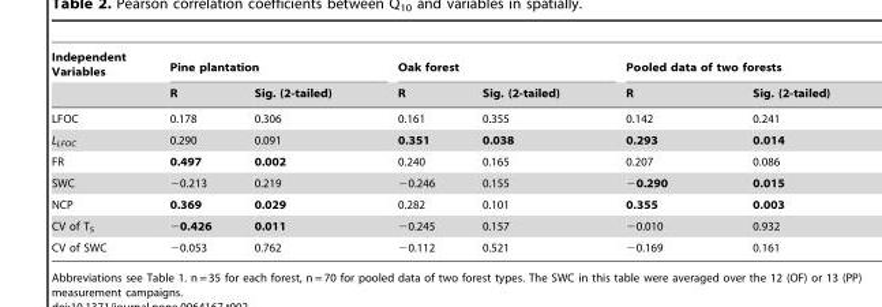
<table><thead><tr><td rowspan="2">Independent Variables</td><td colspan="2">Pine plantation</td><td colspan="2">Oak forest</td><td colspan="2">Pooled data of two forests</td></tr><tr><td>R</td><td>Sig. (2-tailed)</td><td>R</td><td>Sig. (2-tailed)</td><td>R</td><td>Sig. (2-tailed)</td></tr></thead><tbody><tr><td>LFOC</td><td>0.178</td><td>0.306</td><td>0.161</td><td>0.355</td><td>0.142</td><td>0.241</td></tr><tr><td>L<sub>LFOC</sub></td><td>0.290</td><td>0.091</td><td>0.351</td><td>0.038</td><td>0.293</td><td>0.014</td></tr><tr><td>FR</td><td>0.497</td><td>0.002</td><td>0.240</td><td>0.165</td><td>0.207</td><td>0.086</td></tr><tr><td>SWC</td><td>−0.213</td><td>0.219</td><td>−0.246</td><td>0.155</td><td>−0.290</td><td>0.015</td></tr><tr><td>NCP</td><td>0.369</td><td>0.029</td><td>0.282</td><td>0.101</td><td>0.355</td><td>0.003</td></tr><tr><td>CV of T<sub>5</sub></td><td>−0.426</td><td>0.011</td><td>−0.245</td><td>0.157</td><td>−0.010</td><td>0.932</td></tr><tr><td>CV of SWC</td><td>−0.053</td><td>0.762</td><td>−0.112</td><td>0.521</td><td>−0.169</td><td>0.161</td></tr></tbody></table>